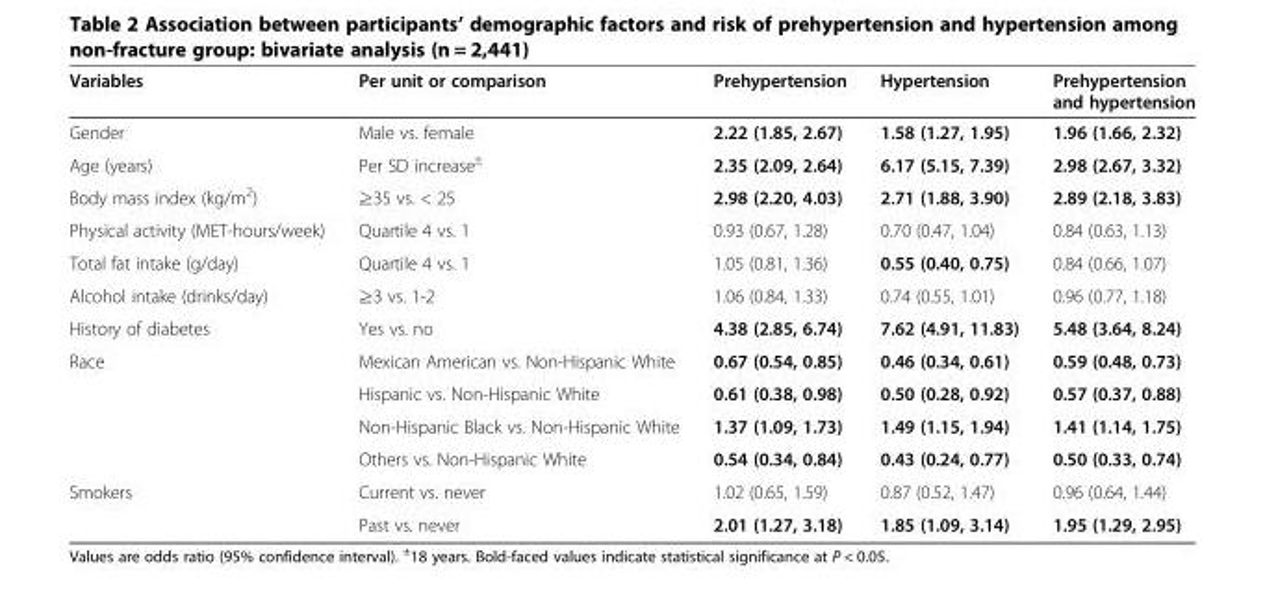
<table><thead><tr><td>Variables</td><td>Per unit or comparison</td><td>Prehypertension</td><td>Hypertension</td><td>Prehypertension and hypertension</td></tr></thead><tbody><tr><td>Gender</td><td>Male vs. female</td><td>2.22 (1.85, 2.67)</td><td>1.58 (1.27, 1.95)</td><td>1.96 (1.66, 2.32)</td></tr><tr><td>Age (years)</td><td>Per SD increase<sup>±</sup></td><td>2.35 (2.09, 2.64)</td><td>6.17 (5.15, 7.39)</td><td>2.98 (2.67, 3.32)</td></tr><tr><td>Body mass index (kg/m<sup>2</sup>)</td><td>≥35 vs. &lt; 25</td><td>2.98 (2.20, 4.03)</td><td>2.71 (1.88, 3.90)</td><td>2.89 (2.18, 3.83)</td></tr><tr><td>Physical activity (MET-hours/week)</td><td>Quartile 4 vs. 1</td><td>0.93 (0.67, 1.28)</td><td>0.70 (0.47, 1.04)</td><td>0.84 (0.63, 1.13)</td></tr><tr><td>Total fat intake (g/day)</td><td>Quartile 4 vs. 1</td><td>1.05 (0.81, 1.36)</td><td>0.55 (0.40, 0.75)</td><td>0.84 (0.66, 1.07)</td></tr><tr><td>Alcohol intake (drinks/day)</td><td>≥3 vs. 1-2</td><td>1.06 (0.84, 1.33)</td><td>0.74 (0.55, 1.01)</td><td>0.96 (0.77, 1.18)</td></tr><tr><td>History of diabetes</td><td>Yes vs. no</td><td>4.38 (2.85, 6.74)</td><td>7.62 (4.91, 11.83)</td><td>5.48 (3.64, 8.24)</td></tr><tr><td rowspan="4">Race</td><td>Mexican American vs. Non-Hispanic White</td><td>0.67 (0.54, 0.85)</td><td>0.46 (0.34, 0.61)</td><td>0.59 (0.48, 0.73)</td></tr><tr><td>Hispanic vs. Non-Hispanic White</td><td>0.61 (0.38, 0.98)</td><td>0.50 (0.28, 0.92)</td><td>0.57 (0.37, 0.88)</td></tr><tr><td>Non-Hispanic Black vs. Non-Hispanic White</td><td>1.37 (1.09, 1.73)</td><td>1.49 (1.15, 1.94)</td><td>1.41 (1.14, 1.75)</td></tr><tr><td>Others vs. Non-Hispanic White</td><td>0.54 (0.34, 0.84)</td><td>0.43 (0.24, 0.77)</td><td>0.50 (0.33, 0.74)</td></tr><tr><td rowspan="2">Smokers</td><td>Current vs. never</td><td>1.02 (0.65, 1.59)</td><td>0.87 (0.52, 1.47)</td><td>0.96 (0.64, 1.44)</td></tr><tr><td>Past vs. never</td><td>2.01 (1.27, 3.18)</td><td>1.85 (1.09, 3.14)</td><td>1.95 (1.29, 2.95)</td></tr></tbody></table>